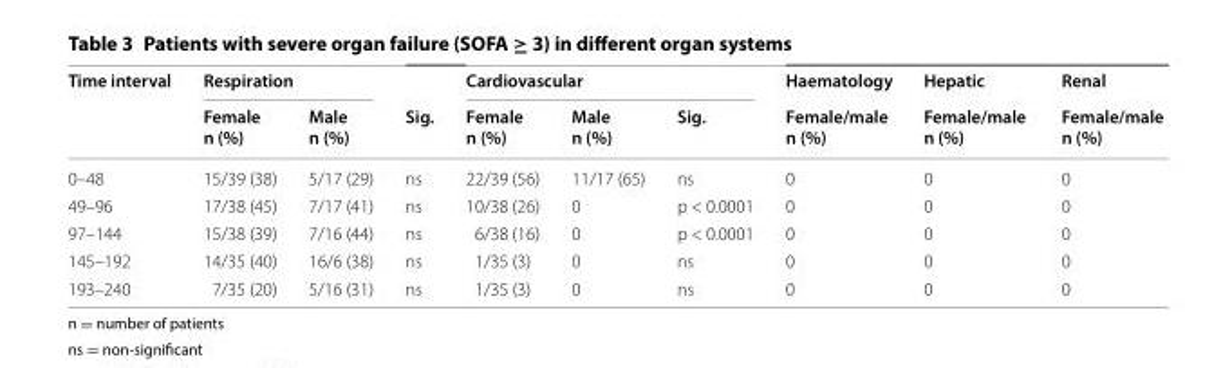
<table><thead><tr><td rowspan="2">Time interval</td><td colspan="2">Respiration</td><td rowspan="2">Sig.</td><td colspan="3">Cardiovascular</td><td rowspan="2">Haematology Female/male n (%)</td><td rowspan="2">Hepatic Female/male n (%)</td><td rowspan="2">Renal Female/male n (%)</td></tr><tr><td>Female n (%)</td><td>Male n (%)</td><td>Female n (%)</td><td>Male n (%)</td><td>Sig.</td></tr></thead><tbody><tr><td>0–48</td><td>15/39 (38)</td><td>5/17 (29)</td><td>ns</td><td>22/39 (56)</td><td>11/17 (65)</td><td>ns</td><td>0</td><td>0</td><td>0</td></tr><tr><td>49–96</td><td>17/38 (45)</td><td>7/17 (41)</td><td>ns</td><td>10/38 (26)</td><td>0</td><td>p &lt; 0.0001</td><td>0</td><td>0</td><td>0</td></tr><tr><td>97–144</td><td>15/38 (39)</td><td>7/16 (44)</td><td>ns</td><td>6/38 (16)</td><td>0</td><td>p &lt; 0.0001</td><td>0</td><td>0</td><td>0</td></tr><tr><td>145–192</td><td>14/35 (40)</td><td>16/6 (38)</td><td>ns</td><td>1/35 (3)</td><td>0</td><td>ns</td><td>0</td><td>0</td><td>0</td></tr><tr><td>193–240</td><td>7/35 (20)</td><td>5/16 (31)</td><td>ns</td><td>1/35 (3)</td><td>0</td><td>ns</td><td>0</td><td>0</td><td>0</td></tr></tbody></table>